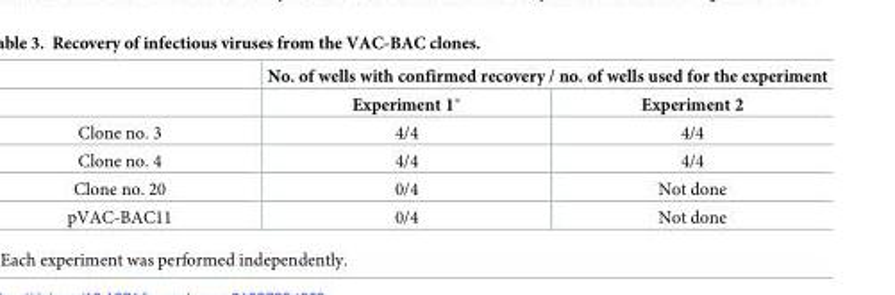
<table><thead><tr><td rowspan="2"></td><td colspan="2">No. of wells with confirmed recovery / no. of wells used for the experiment</td></tr><tr><td>Experiment 1*</td><td>Experiment 2</td></tr></thead><tbody><tr><td>Clone no. 3</td><td>4/4</td><td>4/4</td></tr><tr><td>Clone no. 4</td><td>4/4</td><td>4/4</td></tr><tr><td>Clone no. 20</td><td>0/4</td><td>Not done</td></tr><tr><td>pVAC-BAC11</td><td>0/4</td><td>Not done</td></tr></tbody></table>